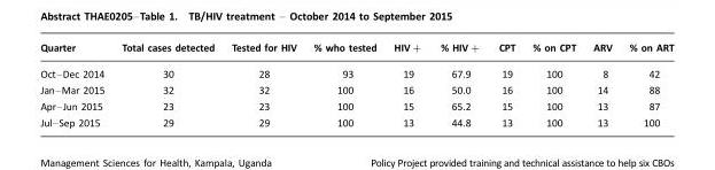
<table><thead><tr><td>Quarter</td><td>Total cases detected</td><td>Tested for HIV</td><td>% who tested</td><td>HIV+</td><td>% HIV+</td><td>CPT</td><td>% on CPT</td><td>ARV</td><td>% on ART</td></tr></thead><tbody><tr><td>Oct–Dec 2014</td><td>30</td><td>28</td><td>93</td><td>19</td><td>67.9</td><td>19</td><td>100</td><td>8</td><td>42</td></tr><tr><td>Jan–Mar 2015</td><td>32</td><td>32</td><td>100</td><td>16</td><td>50.0</td><td>16</td><td>100</td><td>14</td><td>88</td></tr><tr><td>Apr–Jun 2015</td><td>23</td><td>23</td><td>100</td><td>15</td><td>65.2</td><td>15</td><td>100</td><td>13</td><td>87</td></tr><tr><td>Jul–Sep 2015</td><td>29</td><td>29</td><td>100</td><td>13</td><td>44.8</td><td>13</td><td>100</td><td>13</td><td>100</td></tr></tbody></table>